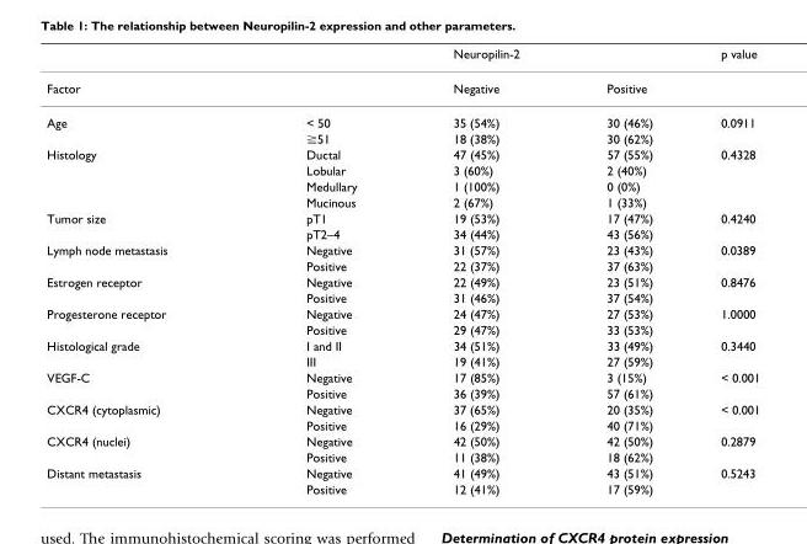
<table><thead><tr><td></td><td></td><td>Neuropilin-2</td><td></td><td>p value</td></tr></thead><tbody><tr><td>Factor</td><td></td><td>Negative</td><td>Positive</td><td></td></tr><tr><td rowspan="2">Age</td><td>&lt; 50</td><td>35 (54%)</td><td>30 (46%)</td><td>0.0911</td></tr><tr><td>≧51</td><td>18 (38%)</td><td>30 (62%)</td><td></td></tr><tr><td rowspan="4">Histology</td><td>Ductal</td><td>47 (45%)</td><td>57 (55%)</td><td>0.4328</td></tr><tr><td>Lobular</td><td>3 (60%)</td><td>2 (40%)</td><td></td></tr><tr><td>Medullary</td><td>1 (100%)</td><td>0 (0%)</td><td></td></tr><tr><td>Mucinous</td><td>2 (67%)</td><td>1 (33%)</td><td></td></tr><tr><td rowspan="2">Tumor size</td><td>pT1</td><td>19 (53%)</td><td>17 (47%)</td><td>0.4240</td></tr><tr><td>pT2–4</td><td>34 (44%)</td><td>43 (56%)</td><td></td></tr><tr><td rowspan="2">Lymph node metastasis</td><td>Negative</td><td>31 (57%)</td><td>23 (43%)</td><td>0.0389</td></tr><tr><td>Positive</td><td>22 (37%)</td><td>37 (63%)</td><td></td></tr><tr><td rowspan="2">Estrogen receptor</td><td>Negative</td><td>22 (49%)</td><td>23 (51%)</td><td>0.8476</td></tr><tr><td>Positive</td><td>31 (46%)</td><td>37 (54%)</td><td></td></tr><tr><td rowspan="2">Progesterone receptor</td><td>Negative</td><td>24 (47%)</td><td>27 (53%)</td><td>1.0000</td></tr><tr><td>Positive</td><td>29 (47%)</td><td>33 (53%)</td><td></td></tr><tr><td rowspan="2">Histological grade</td><td>I and II</td><td>34 (51%)</td><td>33 (49%)</td><td>0.3440</td></tr><tr><td>III</td><td>19 (41%)</td><td>27 (59%)</td><td></td></tr><tr><td rowspan="2">VEGF-C</td><td>Negative</td><td>17 (85%)</td><td>3 (15%)</td><td>&lt; 0.001</td></tr><tr><td>Positive</td><td>36 (39%)</td><td>57 (61%)</td><td></td></tr><tr><td rowspan="2">CXCR4 (cytoplasmic)</td><td>Negative</td><td>37 (65%)</td><td>20 (35%)</td><td>&lt; 0.001</td></tr><tr><td>Positive</td><td>16 (29%)</td><td>40 (71%)</td><td></td></tr><tr><td rowspan="2">CXCR4 (nuclei)</td><td>Negative</td><td>42 (50%)</td><td>42 (50%)</td><td>0.2879</td></tr><tr><td>Positive</td><td>11 (38%)</td><td>18 (62%)</td><td></td></tr><tr><td rowspan="2">Distant metastasis</td><td>Negative</td><td>41 (49%)</td><td>43 (51%)</td><td>0.5243</td></tr><tr><td>Positive</td><td>12 (41%)</td><td>17 (59%)</td><td></td></tr></tbody></table>